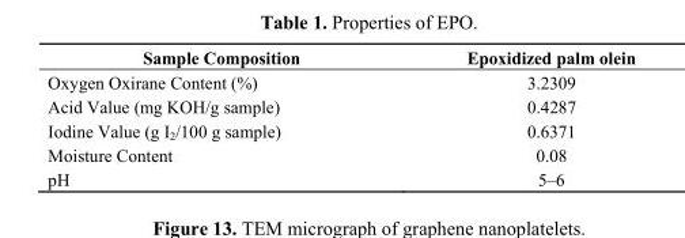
<table><thead><tr><td>Sample Composition</td><td>Epoxidized palm olein</td></tr></thead><tbody><tr><td>Oxygen Oxirane Content (%)</td><td>3.2309</td></tr><tr><td>Acid Value (mg KOH/g sample)</td><td>0.4287</td></tr><tr><td>Iodine Value (g I<sub>2</sub>/100 g sample)</td><td>0.6371</td></tr><tr><td>Moisture Content</td><td>0.08</td></tr><tr><td>pH</td><td>5–6</td></tr></tbody></table>